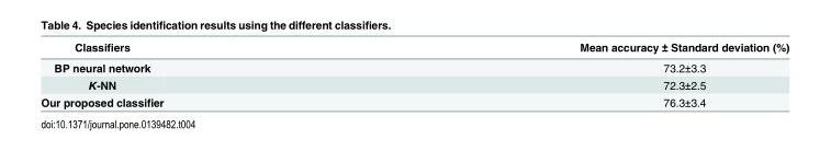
<table><thead><tr><td>Classifiers</td><td>Mean accuracy ± Standard deviation (%)</td></tr></thead><tbody><tr><td>BP neural network</td><td>73.2±3.3</td></tr><tr><td>K-NN</td><td>72.3±2.5</td></tr><tr><td>Our proposed classifier</td><td>76.3±3.4</td></tr></tbody></table>